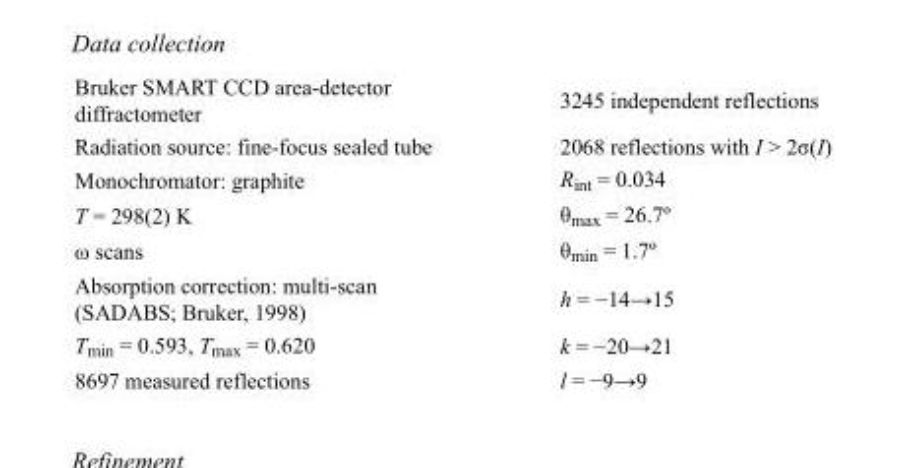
<table><tbody><tr><td>Bruker SMART CCD area-detector diffractometer</td><td>3245 independent reflections</td></tr><tr><td>Radiation source: fine-focus sealed tube</td><td>2068 reflections with I &gt; 2σ(I)</td></tr><tr><td>Monochromator: graphite</td><td>R<sub>int</sub> = 0.034</td></tr><tr><td>T = 298(2) K</td><td>θ<sub>max</sub> = 26.7º</td></tr><tr><td>ω scans</td><td>θ<sub>min</sub> = 1.7º</td></tr><tr><td>Absorption correction: multi-scan (SADABS; Bruker, 1998)</td><td>h = −14→15</td></tr><tr><td>T<sub>min</sub> = 0.593, T<sub>max</sub> = 0.620</td><td>k = −20→21</td></tr><tr><td>8697 measured reflections</td><td>l = −9→9</td></tr></tbody></table>